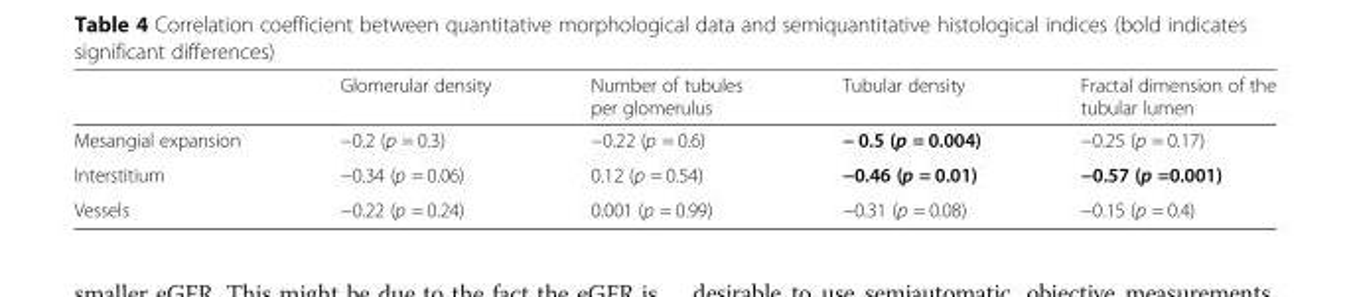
<table><thead><tr><td></td><td>Glomerular density</td><td>Number of tubules per glomerulus</td><td>Tubular density</td><td>Fractal dimension of the tubular lumen</td></tr></thead><tbody><tr><td>Mesangial expansion</td><td>−0.2 (p = 0.3)</td><td>−0.22 (p = 0.6)</td><td>− 0.5 (p = 0.004)</td><td>−0.25 (p = 0.17)</td></tr><tr><td>Interstitium</td><td>−0.34 (p = 0.06)</td><td>0.12 (p = 0.54)</td><td>−0.46 (p = 0.01)</td><td>−0.57 (p =0.001)</td></tr><tr><td>Vessels</td><td>−0.22 (p = 0.24)</td><td>0.001 (p = 0.99)</td><td>−0.31 (p = 0.08)</td><td>−0.15 (p = 0.4)</td></tr></tbody></table>